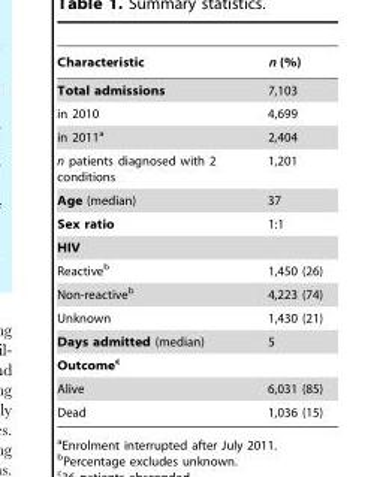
<table><thead><tr><td>Characteristic</td><td>n (%)</td></tr></thead><tbody><tr><td>Total admissions</td><td>7,103</td></tr><tr><td>in 2010</td><td>4,699</td></tr><tr><td>in 2011<sup>a</sup></td><td>2,404</td></tr><tr><td>n patients diagnosed with 2 conditions</td><td>1,201</td></tr><tr><td>Age (median)</td><td>37</td></tr><tr><td>Sex ratio</td><td>1:1</td></tr><tr><td colspan="2">HIV</td></tr><tr><td>Reactive<sup>b</sup></td><td>1,450 (26)</td></tr><tr><td>Non-reactive<sup>b</sup></td><td>4,223 (74)</td></tr><tr><td>Unknown</td><td>1,430 (21)</td></tr><tr><td>Days admitted (median)</td><td>5</td></tr><tr><td colspan="2">Outcomec</td></tr><tr><td>Alive</td><td>6,031 (85)</td></tr><tr><td>Dead</td><td>1,036 (15)</td></tr></tbody></table>